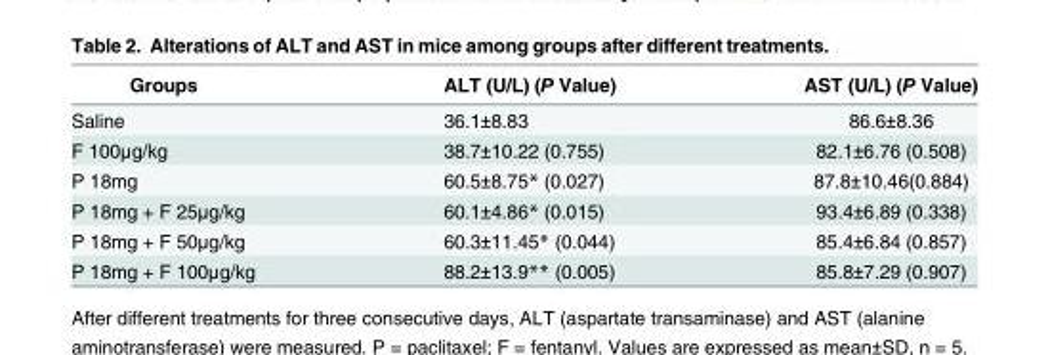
<table><thead><tr><td>Groups</td><td>ALT (U/L) (P Value)</td><td>AST (U/L) (P Value)</td></tr></thead><tbody><tr><td>Saline</td><td>36.1±8.83</td><td>86.6±8.36</td></tr><tr><td>F 100μg/kg</td><td>38.7±10.22 (0.755)</td><td>82.1±6.76 (0.508)</td></tr><tr><td>P 18mg</td><td>60.5±8.75* (0.027)</td><td>87.8±10.46(0.884)</td></tr><tr><td>P 18mg + F 25μg/kg</td><td>60.1±4.86* (0.015)</td><td>93.4±6.89 (0.338)</td></tr><tr><td>P 18mg + F 50μg/kg</td><td>60.3±11.45* (0.044)</td><td>85.4±6.84 (0.857)</td></tr><tr><td>P 18mg + F 100μg/kg</td><td>88.2±13.9** (0.005)</td><td>85.8±7.29 (0.907)</td></tr></tbody></table>